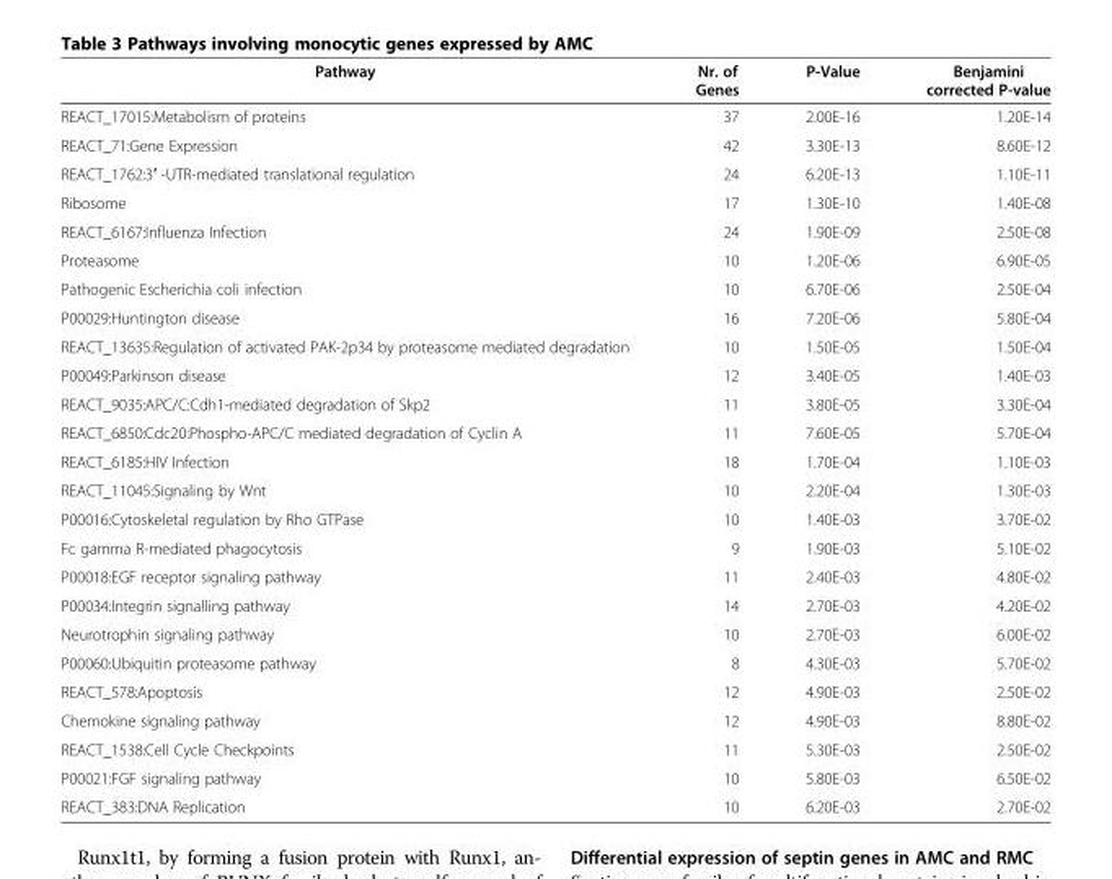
<table><thead><tr><td>Pathway</td><td>Nr. of Genes</td><td>P-Value</td><td>Benjamini corrected P-value</td></tr></thead><tbody><tr><td>REACT_17015:Metabolism of proteins</td><td>37</td><td>2.00E-16</td><td>1.20E-14</td></tr><tr><td>REACT_71:Gene Expression</td><td>42</td><td>3.30E-13</td><td>8.60E-12</td></tr><tr><td>REACT_1762:3′ -UTR-mediated translational regulation</td><td>24</td><td>6.20E-13</td><td>1.10E-11</td></tr><tr><td>Ribosome</td><td>17</td><td>1.30E-10</td><td>1.40E-08</td></tr><tr><td>REACT_6167:Influenza Infection</td><td>24</td><td>1.90E-09</td><td>2.50E-08</td></tr><tr><td>Proteasome</td><td>10</td><td>1.20E-06</td><td>6.90E-05</td></tr><tr><td>Pathogenic Escherichia coli infection</td><td>10</td><td>6.70E-06</td><td>2.50E-04</td></tr><tr><td>P00029:Huntington disease</td><td>16</td><td>7.20E-06</td><td>5.80E-04</td></tr><tr><td>REACT_13635:Regulation of activated PAK-2p34 by proteasome mediated degradation</td><td>10</td><td>1.50E-05</td><td>1.50E-04</td></tr><tr><td>P00049:Parkinson disease</td><td>12</td><td>3.40E-05</td><td>1.40E-03</td></tr><tr><td>REACT_9035:APC/C:Cdh1-mediated degradation of Skp2</td><td>11</td><td>3.80E-05</td><td>3.30E-04</td></tr><tr><td>REACT_6850:Cdc20:Phospho-APC/C mediated degradation of Cyclin A</td><td>11</td><td>7.60E-05</td><td>5.70E-04</td></tr><tr><td>REACT_6185:HIV Infection</td><td>18</td><td>1.70E-04</td><td>1.10E-03</td></tr><tr><td>REACT_11045:Signaling by Wnt</td><td>10</td><td>2.20E-04</td><td>1.30E-03</td></tr><tr><td>P00016:Cytoskeletal regulation by Rho GTPase</td><td>10</td><td>1.40E-03</td><td>3.70E-02</td></tr><tr><td>Fc gamma R-mediated phagocytosis</td><td>9</td><td>1.90E-03</td><td>5.10E-02</td></tr><tr><td>P00018:EGF receptor signaling pathway</td><td>11</td><td>2.40E-03</td><td>4.80E-02</td></tr><tr><td>P00034:Integrin signalling pathway</td><td>14</td><td>2.70E-03</td><td>4.20E-02</td></tr><tr><td>Neurotrophin signaling pathway</td><td>10</td><td>2.70E-03</td><td>6.00E-02</td></tr><tr><td>P00060:Ubiquitin proteasome pathway</td><td>8</td><td>4.30E-03</td><td>5.70E-02</td></tr><tr><td>REACT_578:Apoptosis</td><td>12</td><td>4.90E-03</td><td>2.50E-02</td></tr><tr><td>Chemokine signaling pathway</td><td>12</td><td>4.90E-03</td><td>8.80E-02</td></tr><tr><td>REACT_1538:Cell Cycle Checkpoints</td><td>11</td><td>5.30E-03</td><td>2.50E-02</td></tr><tr><td>P00021:FGF signaling pathway</td><td>10</td><td>5.80E-03</td><td>6.50E-02</td></tr><tr><td>REACT_383:DNA Replication</td><td>10</td><td>6.20E-03</td><td>2.70E-02</td></tr></tbody></table>